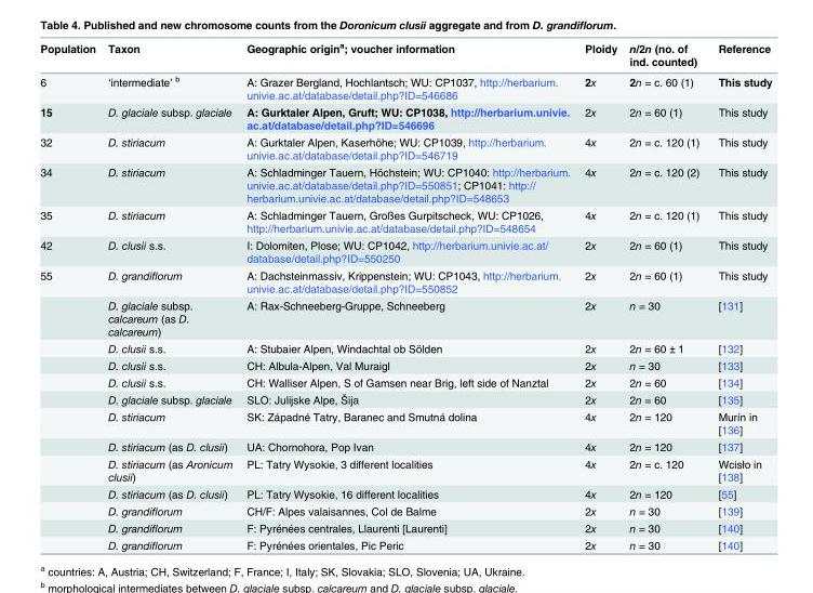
<table><thead><tr><td>Population</td><td>Taxon</td><td>Geographic origin<sup>a</sup>; voucher information</td><td>Ploidy</td><td>n/2n (no. of ind. counted)</td><td>Reference</td></tr></thead><tbody><tr><td>6</td><td>‘intermediate’ <sup>b</sup></td><td>A: Grazer Bergland, Hochlantsch; WU: CP1037, http://herbarium. univie.ac.at/database/detail.php?ID=546686</td><td>2x</td><td>2n = c. 60 (1)</td><td>This study</td></tr><tr><td>15</td><td>D. glaciale subsp. glaciale</td><td>A: Gurktaler Alpen, Gruft; WU: CP1038, http://herbarium.univie. ac.at/database/detail.php?ID=546696</td><td>2x</td><td>2n = 60 (1)</td><td>This study</td></tr><tr><td>32</td><td>D. stiriacum</td><td>A: Gurktaler Alpen, Kaserhöhe; WU: CP1039, http://herbarium. univie.ac.at/database/detail.php?ID=546719</td><td>4x</td><td>2n = c. 120 (1)</td><td>This study</td></tr><tr><td>34</td><td>D. stiriacum</td><td>A: Schladminger Tauern, Höchstein; WU: CP1040: http://herbarium. univie.ac.at/database/detail.php?ID=550851; CP1041: http:// herbarium.univie.ac.at/database/detail.php?ID=548653</td><td>4x</td><td>2n = c. 120 (2)</td><td>This study</td></tr><tr><td>35</td><td>D. stiriacum</td><td>A: Schladminger Tauern, Großes Gurpitscheck, WU: CP1026, http://herbarium.univie.ac.at/database/detail.php?ID=548654</td><td>4x</td><td>2n = c. 120 (1)</td><td>This study</td></tr><tr><td>42</td><td>D. clusii s.s.</td><td>I: Dolomiten, Plose; WU: CP1042, http://herbarium.univie.ac.at/ database/detail.php?ID=550250</td><td>2x</td><td>2n = 60 (1)</td><td>This study</td></tr><tr><td rowspan="13">55</td><td>D. grandiflorum</td><td>A: Dachsteinmassiv, Krippenstein; WU: CP1043, http://herbarium. univie.ac.at/database/detail.php?ID=550852</td><td>2x</td><td>2n = 60 (1)</td><td>This study</td></tr><tr><td>D. glaciale subsp. calcareum (as D. calcareum)</td><td>A: Rax-Schneeberg-Gruppe, Schneeberg</td><td>2x</td><td>n = 30</td><td>[131]</td></tr><tr><td>D. clusii s.s.</td><td>A: Stubaier Alpen, Windachtal ob Sölden</td><td>2x</td><td>2n = 60 ± 1</td><td>[132]</td></tr><tr><td>D. clusii s.s.</td><td>CH: Albula-Alpen, Val Muraigl</td><td>2x</td><td>n = 30</td><td>[133]</td></tr><tr><td>D. clusii s.s.</td><td>CH: Walliser Alpen, S of Gamsen near Brig, left side of Nanztal</td><td>2x</td><td>2n = 60</td><td>[134]</td></tr><tr><td>D. glaciale subsp. glaciale</td><td>SLO: Julijske Alpe, Šija</td><td>2x</td><td>2n = 60</td><td>[135]</td></tr><tr><td>D. stiriacum</td><td>SK: Západné Tatry, Baranec and Smutná dolina</td><td>4x</td><td>2n = 120</td><td>Murín in [136]</td></tr><tr><td>D. stiriacum (as D. clusii)</td><td>UA: Chornohora, Pop Ivan</td><td>4x</td><td>2n = 120</td><td>[137]</td></tr><tr><td>D. stiriacum (as Aronicum clusii)</td><td>PL: Tatry Wysokie, 3 different localities</td><td>4x</td><td>2n = c. 120</td><td>Wcisło in [138]</td></tr><tr><td>D. stiriacum (as D. clusii)</td><td>PL: Tatry Wysokie, 16 different localities</td><td>4x</td><td>2n = 120</td><td>[55]</td></tr><tr><td>D. grandiflorum</td><td>CH/F: Alpes valaisannes, Col de Balme</td><td>2x</td><td>n = 30</td><td>[139]</td></tr><tr><td>D. grandiflorum</td><td>F: Pyrénées centrales, Llaurenti [Laurenti]</td><td>2x</td><td>n = 30</td><td>[140]</td></tr><tr><td>D. grandiflorum</td><td>F: Pyrénées orientales, Pic Peric</td><td>2x</td><td>n = 30</td><td>[140]</td></tr></tbody></table>